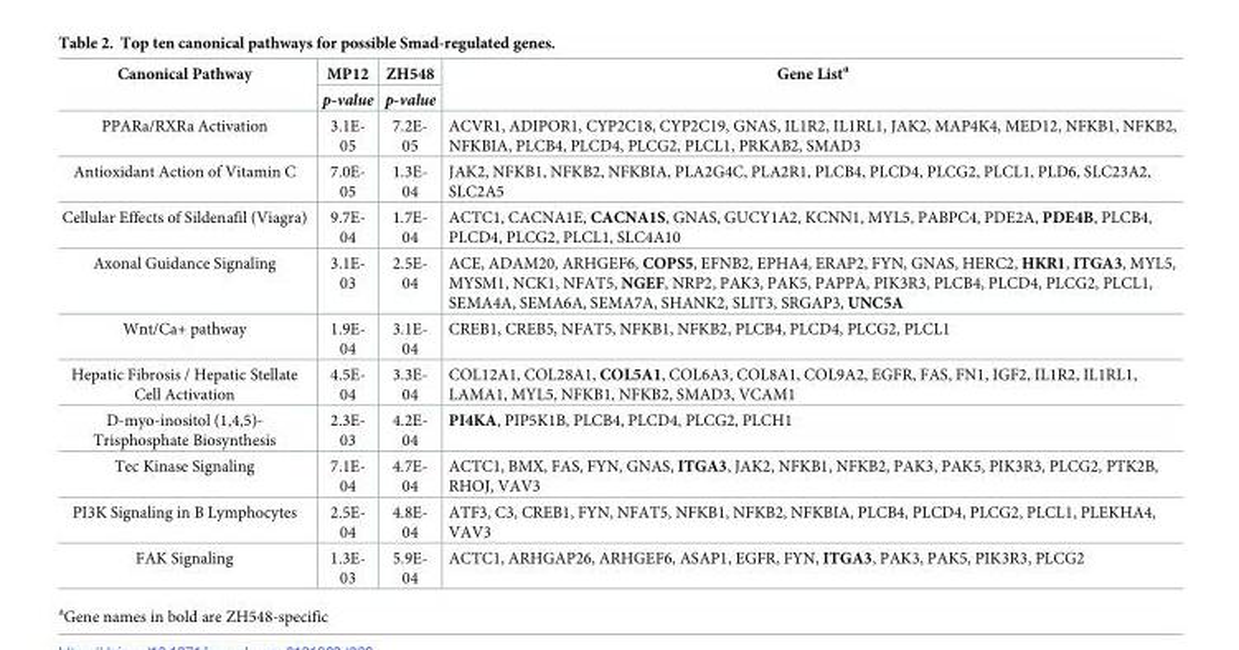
<table><thead><tr><td rowspan="2">Canonical Pathway</td><td rowspan="2">MP12 p-value</td><td rowspan="2">ZH548 p-value</td><td rowspan="2">Gene List<sup>a</sup></td></tr><tr></tr></thead><tbody><tr><td>PPARa/RXRa Activation</td><td>3.1E- 05</td><td>7.2E- 05</td><td>ACVR1, ADIPOR1, CYP2C18, CYP2C19, GNAS, IL1R2, IL1RL1, JAK2, MAP4K4, MED12, NFKB1, NFKB2, NFKBIA, PLCB4, PLCD4, PLCG2, PLCL1, PRKAB2, SMAD3</td></tr><tr><td>Antioxidant Action of Vitamin C</td><td>7.0E- 05</td><td>1.3E- 04</td><td>JAK2, NFKB1, NFKB2, NFKBIA, PLA2G4C, PLA2R1, PLCB4, PLCD4, PLCG2, PLCL1, PLD6, SLC23A2, SLC2A5</td></tr><tr><td>Cellular Effects of Sildenafil (Viagra)</td><td>9.7E- 04</td><td>1.7E- 04</td><td>ACTC1, CACNA1E, CACNA1S, GNAS, GUCY1A2, KCNN1, MYL5, PABPC4, PDE2A, PDE4B, PLCB4, PLCD4, PLCG2, PLCL1, SLC4A10</td></tr><tr><td>Axonal Guidance Signaling</td><td>3.1E- 03</td><td>2.5E- 04</td><td>ACE, ADAM20, ARHGEF6, COPS5, EFNB2, EPHA4, ERAP2, FYN, GNAS, HERC2, HKR1, ITGA3, MYL5, MYSM1, NCK1, NFAT5, NGEF, NRP2, PAK3, PAK5, PAPPA, PIK3R3, PLCB4, PLCD4, PLCG2, PLCL1, SEMA4A, SEMA6A, SEMA7A, SHANK2, SLIT3, SRGAP3, UNC5A</td></tr><tr><td>Wnt/Ca+ pathway</td><td>1.9E- 04</td><td>3.1E- 04</td><td>CREB1, CREB5, NFAT5, NFKB1, NFKB2, PLCB4, PLCD4, PLCG2, PLCL1</td></tr><tr><td>Hepatic Fibrosis / Hepatic Stellate Cell Activation</td><td>4.5E- 04</td><td>3.3E- 04</td><td>COL12A1, COL28A1, COL5A1, COL6A3, COL8A1, COL9A2, EGFR, FAS, FN1, IGF2, IL1R2, IL1RL1, LAMA1, MYL5, NFKB1, NFKB2, SMAD3, VCAM1</td></tr><tr><td>D-myo-inositol (1,4,5)- Trisphosphate Biosynthesis</td><td>2.3E- 03</td><td>4.2E- 04</td><td>PI4KA, PIP5K1B, PLCB4, PLCD4, PLCG2, PLCH1</td></tr><tr><td>Tec Kinase Signaling</td><td>7.1E- 04</td><td>4.7E- 04</td><td>ACTC1, BMX, FAS, FYN, GNAS, ITGA3, JAK2, NFKB1, NFKB2, PAK3, PAK5, PIK3R3, PLCG2, PTK2B, RHOJ, VAV3</td></tr><tr><td>PI3K Signaling in B Lymphocytes</td><td>2.5E- 04</td><td>4.8E- 04</td><td>ATF3, C3, CREB1, FYN, NFAT5, NFKB1, NFKB2, NFKBIA, PLCB4, PLCD4, PLCG2, PLCL1, PLEKHA4, VAV3</td></tr><tr><td>FAK Signaling</td><td>1.3E- 03</td><td>5.9E- 04</td><td>ACTC1, ARHGAP26, ARHGEF6, ASAP1, EGFR, FYN, ITGA3, PAK3, PAK5, PIK3R3, PLCG2</td></tr></tbody></table>